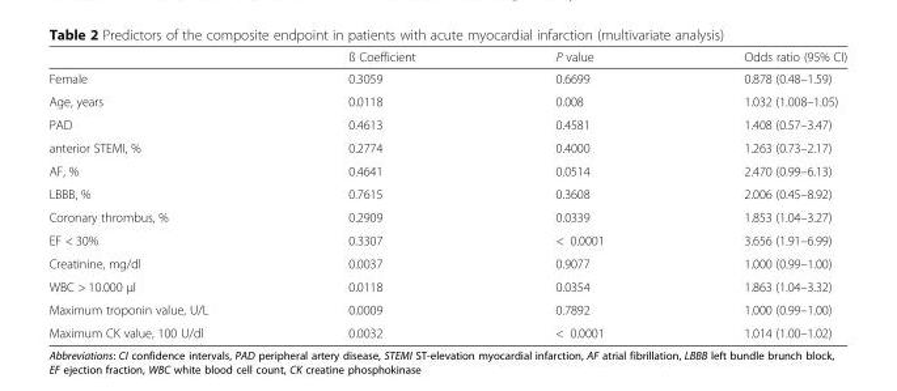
<table><thead><tr><td></td><td>ß Coefficient</td><td>P value</td><td>Odds ratio (95% CI)</td></tr></thead><tbody><tr><td>Female</td><td>0.3059</td><td>0.6699</td><td>0.878 (0.48–1.59)</td></tr><tr><td>Age, years</td><td>0.0118</td><td>0.008</td><td>1.032 (1.008–1.05)</td></tr><tr><td>PAD</td><td>0.4613</td><td>0.4581</td><td>1.408 (0.57–3.47)</td></tr><tr><td>anterior STEMI, %</td><td>0.2774</td><td>0.4000</td><td>1.263 (0.73–2.17)</td></tr><tr><td>AF, %</td><td>0.4641</td><td>0.0514</td><td>2.470 (0.99–6.13)</td></tr><tr><td>LBBB, %</td><td>0.7615</td><td>0.3608</td><td>2.006 (0.45–8.92)</td></tr><tr><td>Coronary thrombus, %</td><td>0.2909</td><td>0.0339</td><td>1.853 (1.04–3.27)</td></tr><tr><td>EF &lt; 30%</td><td>0.3307</td><td>&lt; 0.0001</td><td>3.656 (1.91–6.99)</td></tr><tr><td>Creatinine, mg/dl</td><td>0.0037</td><td>0.9077</td><td>1.000 (0.99–1.00)</td></tr><tr><td>WBC &gt; 10.000 μl</td><td>0.0118</td><td>0.0354</td><td>1.863 (1.04–3.32)</td></tr><tr><td>Maximum troponin value, U/L</td><td>0.0009</td><td>0.7892</td><td>1.000 (0.99–1.00)</td></tr><tr><td>Maximum CK value, 100 U/dl</td><td>0.0032</td><td>&lt; 0.0001</td><td>1.014 (1.00–1.02)</td></tr></tbody></table>